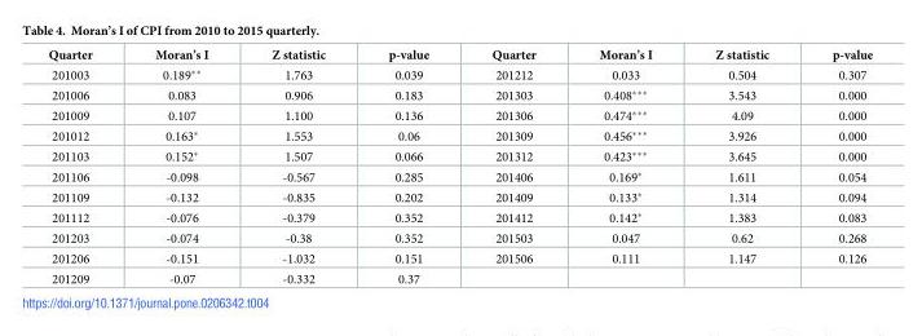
<table><thead><tr><td>Quarter</td><td>Moran’s I</td><td>Z statistic</td><td>p-value</td><td>Quarter</td><td>Moran’s I</td><td>Z statistic</td><td>p-value</td></tr></thead><tbody><tr><td>201003</td><td>0.189**</td><td>1.763</td><td>0.039</td><td>201212</td><td>0.033</td><td>0.504</td><td>0.307</td></tr><tr><td>201006</td><td>0.083</td><td>0.906</td><td>0.183</td><td>201303</td><td>0.408***</td><td>3.543</td><td>0.000</td></tr><tr><td>201009</td><td>0.107</td><td>1.100</td><td>0.136</td><td>201306</td><td>0.474***</td><td>4.09</td><td>0.000</td></tr><tr><td>201012</td><td>0.163*</td><td>1.553</td><td>0.06</td><td>201309</td><td>0.456***</td><td>3.926</td><td>0.000</td></tr><tr><td>201103</td><td>0.152*</td><td>1.507</td><td>0.066</td><td>201312</td><td>0.423***</td><td>3.645</td><td>0.000</td></tr><tr><td>201106</td><td>-0.098</td><td>-0.567</td><td>0.285</td><td>201406</td><td>0.169*</td><td>1.611</td><td>0.054</td></tr><tr><td>201109</td><td>-0.132</td><td>-0.835</td><td>0.202</td><td>201409</td><td>0.133*</td><td>1.314</td><td>0.094</td></tr><tr><td>201112</td><td>-0.076</td><td>-0.379</td><td>0.352</td><td>201412</td><td>0.142*</td><td>1.383</td><td>0.083</td></tr><tr><td>201203</td><td>-0.074</td><td>-0.38</td><td>0.352</td><td>201503</td><td>0.047</td><td>0.62</td><td>0.268</td></tr><tr><td>201206</td><td>-0.151</td><td>-1.032</td><td>0.151</td><td>201506</td><td>0.111</td><td>1.147</td><td>0.126</td></tr><tr><td>201209</td><td>-0.07</td><td>-0.332</td><td>0.37</td><td></td><td></td><td></td><td></td></tr></tbody></table>